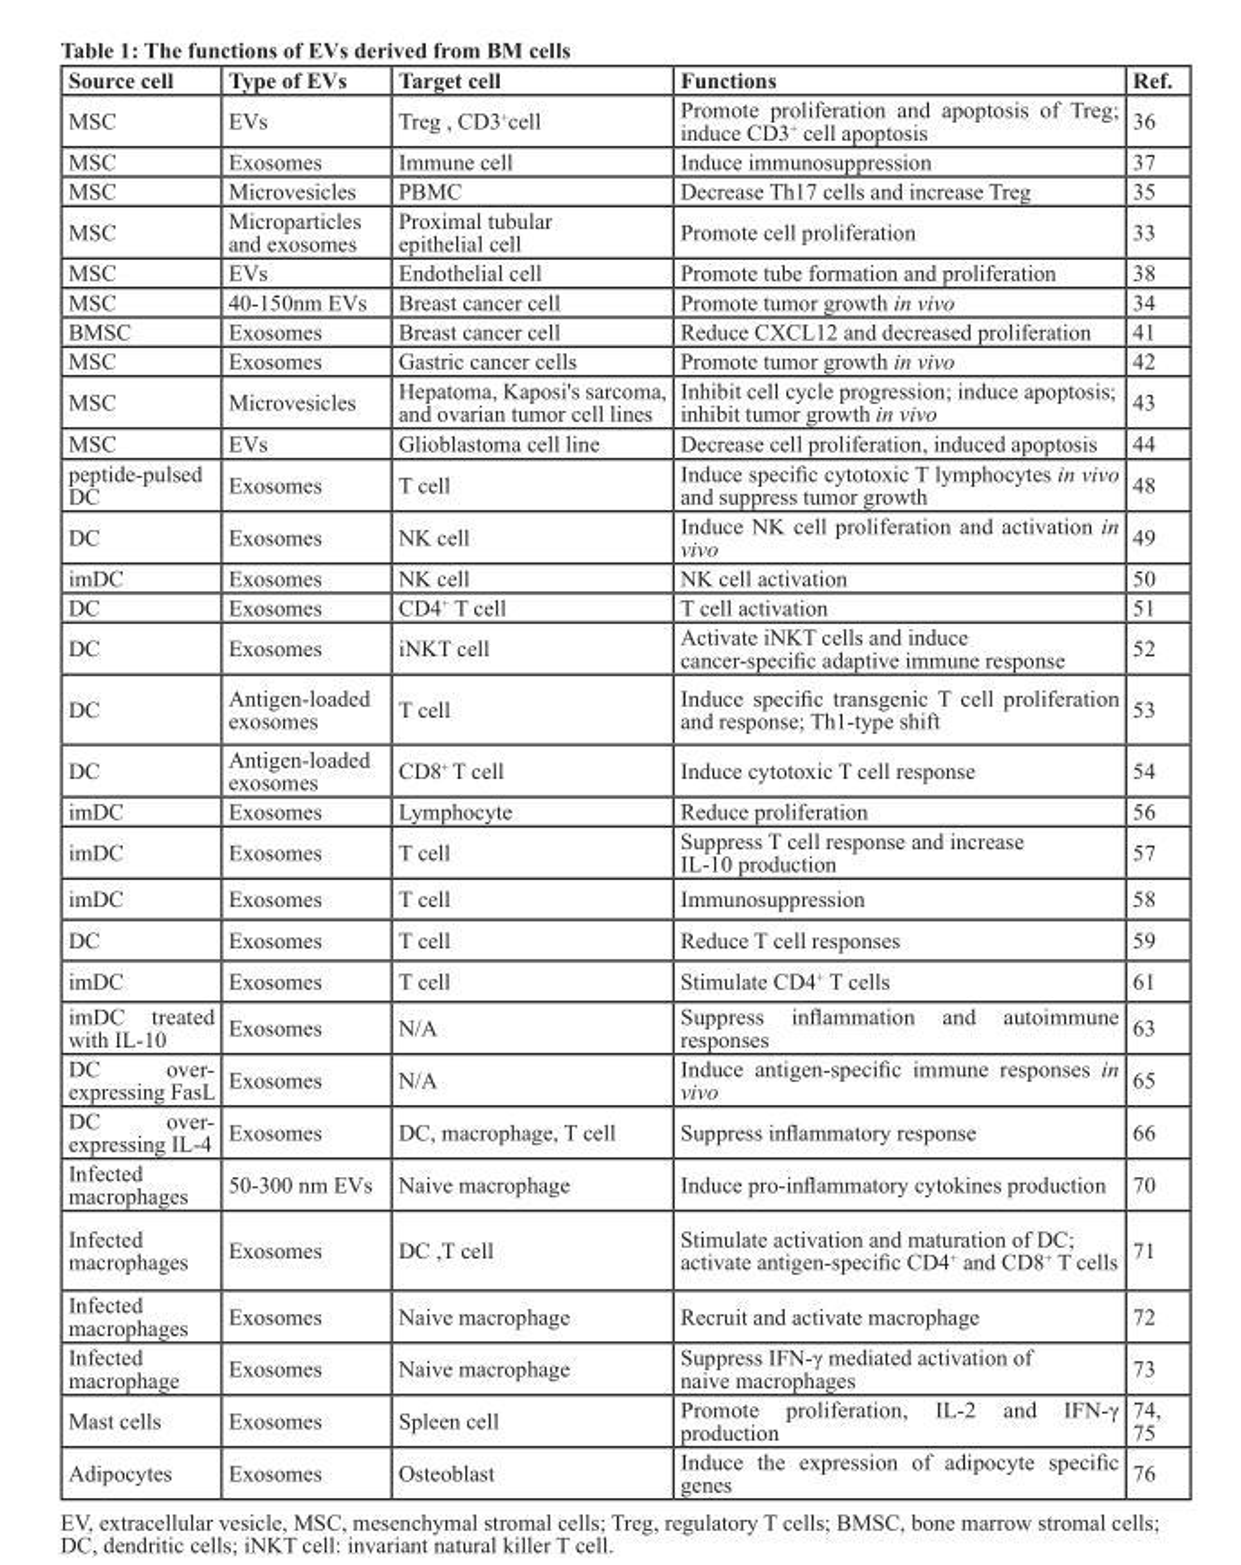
<table><thead><tr><td>source cell</td><td>type of evs</td><td>target cell</td><td>Functions</td><td>ref.</td></tr></thead><tbody><tr><td>MSC</td><td>EVs</td><td>Treg , CD3<sup>+</sup>cell</td><td>Promote proliferation and apoptosis of Treg; induce CD3<sup>+</sup> cell apoptosis</td><td>36</td></tr><tr><td>MSC</td><td>Exosomes</td><td>Immune cell</td><td>Induce immunosuppression</td><td>37</td></tr><tr><td>MSC</td><td>Microvesicles</td><td>PBMC</td><td>Decrease Th17 cells and increase Treg</td><td>35</td></tr><tr><td>MSC</td><td>Microparticles and exosomes</td><td>Proximal tubular epithelial cell</td><td>Promote cell proliferation</td><td>33</td></tr><tr><td>MSC</td><td>EVs</td><td>Endothelial cell</td><td>Promote tube formation and proliferation</td><td>38</td></tr><tr><td>MSC</td><td>40-150nm EVs</td><td>Breast cancer cell</td><td>Promote tumor growth in vivo</td><td>34</td></tr><tr><td>BMSC</td><td>Exosomes</td><td>Breast cancer cell</td><td>Reduce CXCL12 and decreased proliferation</td><td>41</td></tr><tr><td>MSC</td><td>Exosomes</td><td>Gastric cancer cells</td><td>Promote tumor growth in vivo</td><td>42</td></tr><tr><td>MSC</td><td>Microvesicles</td><td>Hepatoma, Kaposi&#x27;s sarcoma, and ovarian tumor cell lines</td><td>Inhibit cell cycle progression; induce apoptosis; inhibit tumor growth in vivo</td><td>43</td></tr><tr><td>MSC</td><td>EVs</td><td>Glioblastoma cell line</td><td>Decrease cell proliferation, induced apoptosis</td><td>44</td></tr><tr><td>peptide-pulsed DC</td><td>Exosomes</td><td>T cell</td><td>Induce specific cytotoxic T lymphocytes in vivo and suppress tumor growth</td><td>48</td></tr><tr><td>DC</td><td>Exosomes</td><td>NK cell</td><td>Induce NK cell proliferation and activation in vivo</td><td>49</td></tr><tr><td>imDC</td><td>Exosomes</td><td>NK cell</td><td>NK cell activation</td><td>50</td></tr><tr><td>DC</td><td>Exosomes</td><td>CD4<sup>+</sup> T cell</td><td>T cell activation</td><td>51</td></tr><tr><td>DC</td><td>Exosomes</td><td>iNKT cell</td><td>Activate iNKT cells and induce cancer-specific adaptive immune response</td><td>52</td></tr><tr><td>DC</td><td>Antigen-loaded exosomes</td><td>T cell</td><td>Induce specific transgenic T cell proliferation and response; Th1-type shift</td><td>53</td></tr><tr><td>DC</td><td>Antigen-loaded exosomes</td><td>CD8<sup>+</sup> T cell</td><td>Induce cytotoxic T cell response</td><td>54</td></tr><tr><td>imDC</td><td>Exosomes</td><td>Lymphocyte</td><td>Reduce proliferation</td><td>56</td></tr><tr><td>imDC</td><td>Exosomes</td><td>T cell</td><td>Suppress T cell response and increase IL-10 production</td><td>57</td></tr><tr><td>imDC</td><td>Exosomes</td><td>T cell</td><td>Immunosuppression</td><td>58</td></tr><tr><td>DC</td><td>Exosomes</td><td>T cell</td><td>Reduce T cell responses</td><td>59</td></tr><tr><td>imDC</td><td>Exosomes</td><td>T cell</td><td>Stimulate CD4<sup>+</sup> T cells</td><td>61</td></tr><tr><td>imDC treated with IL-10</td><td>Exosomes</td><td>N/A</td><td>Suppress inflammation and autoimmune responses</td><td>63</td></tr><tr><td>DC over- expressing FasL</td><td>Exosomes</td><td>N/A</td><td>Induce antigen-specific immune responses in vivo</td><td>65</td></tr><tr><td>DC over- expressing IL-4</td><td>Exosomes</td><td>DC, macrophage, T cell</td><td>Suppress inflammatory response</td><td>66</td></tr><tr><td>Infected macrophages</td><td>50-300 nm EVs</td><td>Naive macrophage</td><td>Induce pro-inflammatory cytokines production</td><td>70</td></tr><tr><td>Infected macrophages</td><td>Exosomes</td><td>DC ,T cell</td><td>Stimulate activation and maturation of DC; activate antigen-specific CD4<sup>+</sup> and CD8<sup>+</sup> T cells</td><td>71</td></tr><tr><td>Infected macrophages</td><td>Exosomes</td><td>Naive macrophage</td><td>Recruit and activate macrophage</td><td>72</td></tr><tr><td>Infected macrophage</td><td>Exosomes</td><td>Naive macrophage</td><td>Suppress IFN-γ mediated activation of naive macrophages</td><td>73</td></tr><tr><td>Mast cells</td><td>Exosomes</td><td>Spleen cell</td><td>Promote proliferation, IL-2 and IFN-γ production</td><td>74, 75</td></tr><tr><td>Adipocytes</td><td>Exosomes</td><td>Osteoblast</td><td>Induce the expression of adipocyte specific genes</td><td>76</td></tr></tbody></table>